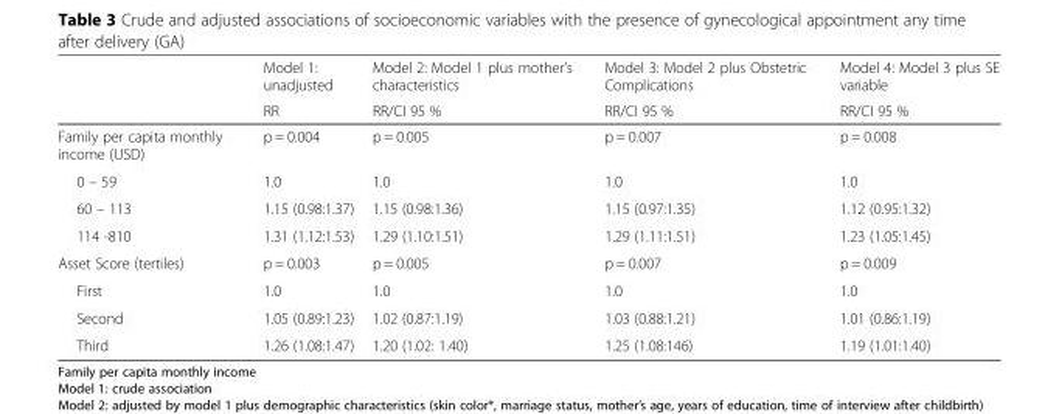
<table><thead><tr><td rowspan="2"></td><td rowspan="2">Model 1: unadjusted RR</td><td rowspan="2">Model 2: Model 1 plus mother’s characteristics RR/CI 95 %</td><td rowspan="2">Model 3: Model 2 plus Obstetric Complications RR/CI 95 %</td><td rowspan="2">Model 4: Model 3 plus SE variable RR/CI 95 %</td></tr><tr></tr></thead><tbody><tr><td>Family per capita monthly income (USD)</td><td>p = 0.004</td><td>p = 0.005</td><td>p = 0.007</td><td>p = 0.008</td></tr><tr><td>0 – 59</td><td>1.0</td><td>1.0</td><td>1.0</td><td>1.0</td></tr><tr><td>60 – 113</td><td>1.15 (0.98:1.37)</td><td>1.15 (0.98:1.36)</td><td>1.15 (0.97:1.35)</td><td>1.12 (0.95:1.32)</td></tr><tr><td>114 -810</td><td>1.31 (1.12:1.53)</td><td>1.29 (1.10:1.51)</td><td>1.29 (1.11:1.51)</td><td>1.23 (1.05:1.45)</td></tr><tr><td>Asset Score (tertiles)</td><td>p = 0.003</td><td>p = 0.005</td><td>p = 0.007</td><td>p = 0.009</td></tr><tr><td>First</td><td>1.0</td><td>1.0</td><td>1.0</td><td>1.0</td></tr><tr><td>Second</td><td>1.05 (0.89:1.23)</td><td>1.02 (0.87:1.19)</td><td>1.03 (0.88:1.21)</td><td>1.01 (0.86:1.19)</td></tr><tr><td>Third</td><td>1.26 (1.08:1.47)</td><td>1.20 (1.02: 1.40)</td><td>1.25 (1.08:146)</td><td>1.19 (1.01:1.40)</td></tr></tbody></table>